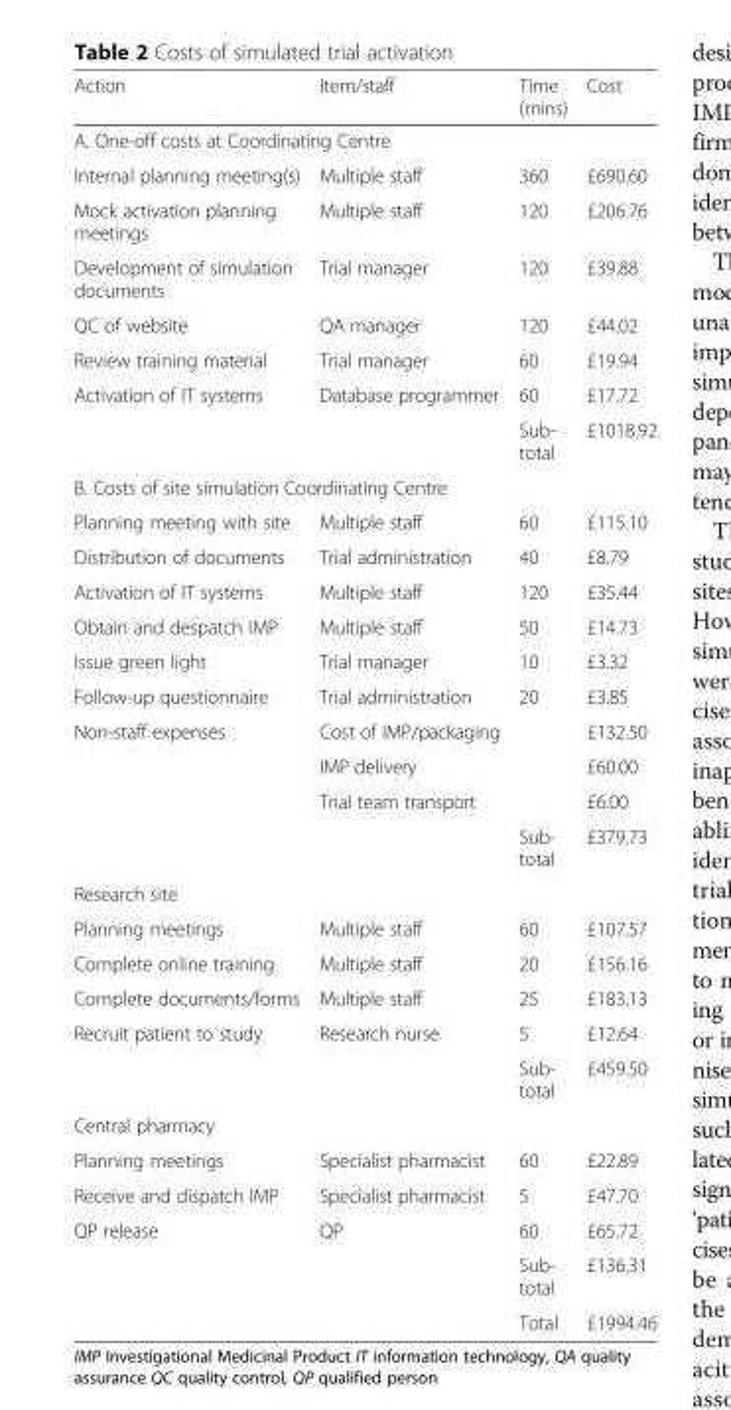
<table><thead><tr><td>Action</td><td>Item/staff</td><td>Time (mins)</td><td>Cost</td></tr></thead><tbody><tr><td colspan="4">A. One-off costs at Coordinating Centre</td></tr><tr><td>Internal planning meeting(s)</td><td>Multiple staff</td><td>360</td><td>£690.60</td></tr><tr><td>Mock activation planning meetings</td><td>Multiple staff</td><td>120</td><td>£206.76</td></tr><tr><td>Development of simulation documents</td><td>Trial manager</td><td>120</td><td>£39.88</td></tr><tr><td>QC of website</td><td>QA manager</td><td>120</td><td>£44.02</td></tr><tr><td>Review training material</td><td>Trial manager</td><td>60</td><td>£19.94</td></tr><tr><td rowspan="2">Activation of IT systems</td><td>Database programmer</td><td>60</td><td>£17.72</td></tr><tr><td></td><td>Sub- total</td><td>£1018.92</td></tr><tr><td colspan="4">B. Costs of site simulation Coordinating Centre</td></tr><tr><td>Planning meeting with site</td><td>Multiple staff</td><td>60</td><td>£115.10</td></tr><tr><td>Distribution of documents</td><td>Trial administration</td><td>40</td><td>£8.79</td></tr><tr><td>Activation of IT systems</td><td>Multiple staff</td><td>120</td><td>£35.44</td></tr><tr><td>Obtain and despatch IMP</td><td>Multiple staff</td><td>50</td><td>£14.73</td></tr><tr><td>Issue green light</td><td>Trial manager</td><td>10</td><td>£3.32</td></tr><tr><td>Follow-up questionnaire</td><td>Trial administration</td><td>20</td><td>£3.85</td></tr><tr><td rowspan="4">Non-staff expenses</td><td>Cost of IMP/packaging</td><td></td><td>£132.50</td></tr><tr><td>IMP delivery</td><td></td><td>£60.00</td></tr><tr><td>Trial team transport</td><td></td><td>£6.00</td></tr><tr><td></td><td>Sub- total</td><td>£379.73</td></tr><tr><td colspan="4">Research site</td></tr><tr><td>Planning meetings</td><td>Multiple staff</td><td>60</td><td>£107.57</td></tr><tr><td>Complete online training</td><td>Multiple staff</td><td>20</td><td>£156.16</td></tr><tr><td>Complete documents/forms</td><td>Multiple staff</td><td>25</td><td>£183.13</td></tr><tr><td rowspan="2">Recruit patient to study</td><td>Research nurse</td><td>5</td><td>£12.64</td></tr><tr><td></td><td>Sub- total</td><td>£459.50</td></tr><tr><td colspan="4">Central pharmacy</td></tr><tr><td>Planning meetings</td><td>Specialist pharmacist</td><td>60</td><td>£22.89</td></tr><tr><td>Receive and dispatch IMP</td><td>Specialist pharmacist</td><td>5</td><td>£47.70</td></tr><tr><td rowspan="3">QP release</td><td>QP</td><td>60</td><td>£65.72</td></tr><tr><td></td><td>Sub- total</td><td>£136.31</td></tr><tr><td></td><td>Total</td><td>£1994.46</td></tr></tbody></table>